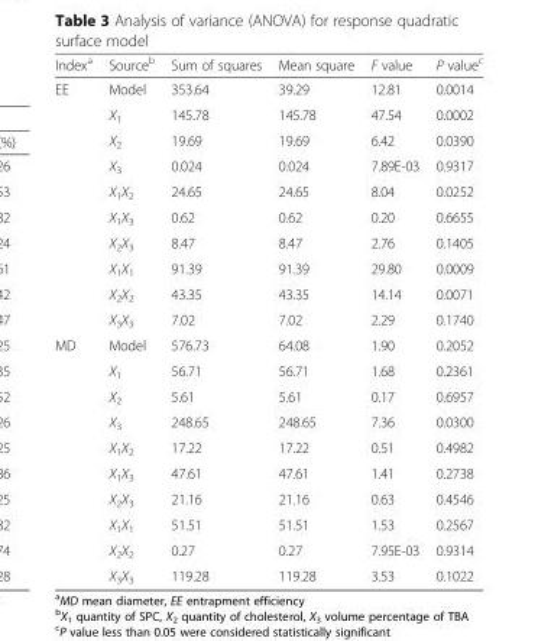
<table><thead><tr><td>Index<sup>a</sup></td><td>Source<sup>b</sup></td><td>Sum of squares</td><td>Mean square</td><td>F value</td><td>P value<sup>c</sup></td></tr></thead><tbody><tr><td rowspan="10">EE</td><td>Model</td><td>353.64</td><td>39.29</td><td>12.81</td><td>0.0014</td></tr><tr><td>X<sub>1</sub></td><td>145.78</td><td>145.78</td><td>47.54</td><td>0.0002</td></tr><tr><td>X<sub>2</sub></td><td>19.69</td><td>19.69</td><td>6.42</td><td>0.0390</td></tr><tr><td>X<sub>3</sub></td><td>0.024</td><td>0.024</td><td>7.89E-03</td><td>0.9317</td></tr><tr><td>X<sub>1</sub>X<sub>2</sub></td><td>24.65</td><td>24.65</td><td>8.04</td><td>0.0252</td></tr><tr><td>X<sub>1</sub>X<sub>3</sub></td><td>0.62</td><td>0.62</td><td>0.20</td><td>0.6655</td></tr><tr><td>X<sub>2</sub>X<sub>3</sub></td><td>8.47</td><td>8.47</td><td>2.76</td><td>0.1405</td></tr><tr><td>X<sub>1</sub>X<sub>1</sub></td><td>91.39</td><td>91.39</td><td>29.80</td><td>0.0009</td></tr><tr><td>X<sub>2</sub>X<sub>2</sub></td><td>43.35</td><td>43.35</td><td>14.14</td><td>0.0071</td></tr><tr><td>X<sub>3</sub>X<sub>3</sub></td><td>7.02</td><td>7.02</td><td>2.29</td><td>0.1740</td></tr><tr><td rowspan="10">MD</td><td>Model</td><td>576.73</td><td>64.08</td><td>1.90</td><td>0.2052</td></tr><tr><td>X<sub>1</sub></td><td>56.71</td><td>56.71</td><td>1.68</td><td>0.2361</td></tr><tr><td>X<sub>2</sub></td><td>5.61</td><td>5.61</td><td>0.17</td><td>0.6957</td></tr><tr><td>X<sub>3</sub></td><td>248.65</td><td>248.65</td><td>7.36</td><td>0.0300</td></tr><tr><td>X<sub>1</sub>X<sub>2</sub></td><td>17.22</td><td>17.22</td><td>0.51</td><td>0.4982</td></tr><tr><td>X<sub>1</sub>X<sub>3</sub></td><td>47.61</td><td>47.61</td><td>1.41</td><td>0.2738</td></tr><tr><td>X<sub>2</sub>X<sub>3</sub></td><td>21.16</td><td>21.16</td><td>0.63</td><td>0.4546</td></tr><tr><td>X<sub>1</sub>X<sub>1</sub></td><td>51.51</td><td>51.51</td><td>1.53</td><td>0.2567</td></tr><tr><td>X<sub>2</sub>X<sub>2</sub></td><td>0.27</td><td>0.27</td><td>7.95E-03</td><td>0.9314</td></tr><tr><td>X<sub>3</sub>X<sub>3</sub></td><td>119.28</td><td>119.28</td><td>3.53</td><td>0.1022</td></tr></tbody></table>